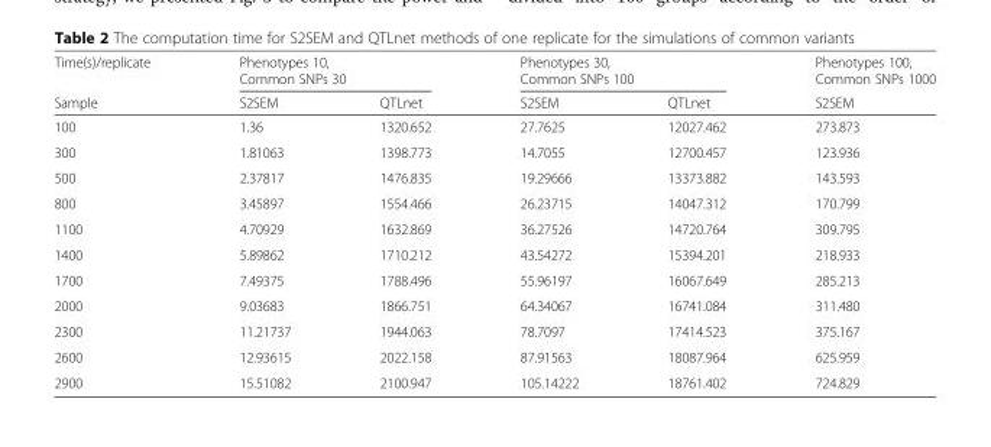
<table><thead><tr><td rowspan="2">Time(s)/replicate Sample</td><td colspan="2">Phenotypes 10, Common SNPs 30</td><td colspan="2">Phenotypes 30, Common SNPs 100</td><td rowspan="2">Phenotypes 100, Common SNPs 1000 S2SEM</td></tr><tr><td>S2SEM</td><td>QTLnet</td><td>S2SEM</td><td>QTLnet</td></tr></thead><tbody><tr><td>100</td><td>1.36</td><td>1320.652</td><td>27.7625</td><td>12027.462</td><td>273.873</td></tr><tr><td>300</td><td>1.81063</td><td>1398.773</td><td>14.7055</td><td>12700.457</td><td>123.936</td></tr><tr><td>500</td><td>2.37817</td><td>1476.835</td><td>19.29666</td><td>13373.882</td><td>143.593</td></tr><tr><td>800</td><td>3.45897</td><td>1554.466</td><td>26.23715</td><td>14047.312</td><td>170.799</td></tr><tr><td>1100</td><td>4.70929</td><td>1632.869</td><td>36.27526</td><td>14720.764</td><td>309.795</td></tr><tr><td>1400</td><td>5.89862</td><td>1710.212</td><td>43.54272</td><td>15394.201</td><td>218.933</td></tr><tr><td>1700</td><td>7.49375</td><td>1788.496</td><td>55.96197</td><td>16067.649</td><td>285.213</td></tr><tr><td>2000</td><td>9.03683</td><td>1866.751</td><td>64.34067</td><td>16741.084</td><td>311.480</td></tr><tr><td>2300</td><td>11.21737</td><td>1944.063</td><td>78.7097</td><td>17414.523</td><td>375.167</td></tr><tr><td>2600</td><td>12.93615</td><td>2022.158</td><td>87.91563</td><td>18087.964</td><td>625.959</td></tr><tr><td>2900</td><td>15.51082</td><td>2100.947</td><td>105.14222</td><td>18761.402</td><td>724.829</td></tr></tbody></table>